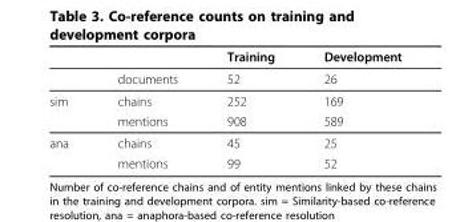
<table><thead><tr><td></td><td></td><td>Training</td><td>Development</td></tr></thead><tbody><tr><td></td><td>documents</td><td>52</td><td>26</td></tr><tr><td rowspan="2">sim</td><td>chains</td><td>252</td><td>169</td></tr><tr><td>mentions</td><td>908</td><td>589</td></tr><tr><td rowspan="2">ana</td><td>chains</td><td>45</td><td>25</td></tr><tr><td>mentions</td><td>99</td><td>52</td></tr></tbody></table>